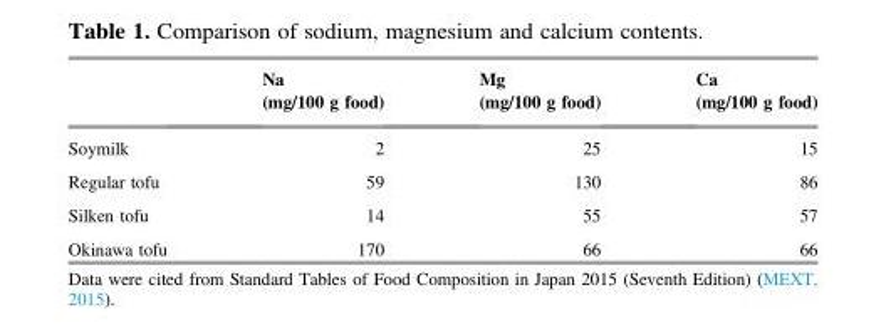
<table><thead><tr><td></td><td>Na (mg/100 g food)</td><td>Mg (mg/100 g food)</td><td>Ca (mg/100 g food)</td></tr></thead><tbody><tr><td>Soymilk</td><td>2</td><td>25</td><td>15</td></tr><tr><td>Regular tofu</td><td>59</td><td>130</td><td>86</td></tr><tr><td>Silken tofu</td><td>14</td><td>55</td><td>57</td></tr><tr><td>Okinawa tofu</td><td>170</td><td>66</td><td>66</td></tr></tbody></table>